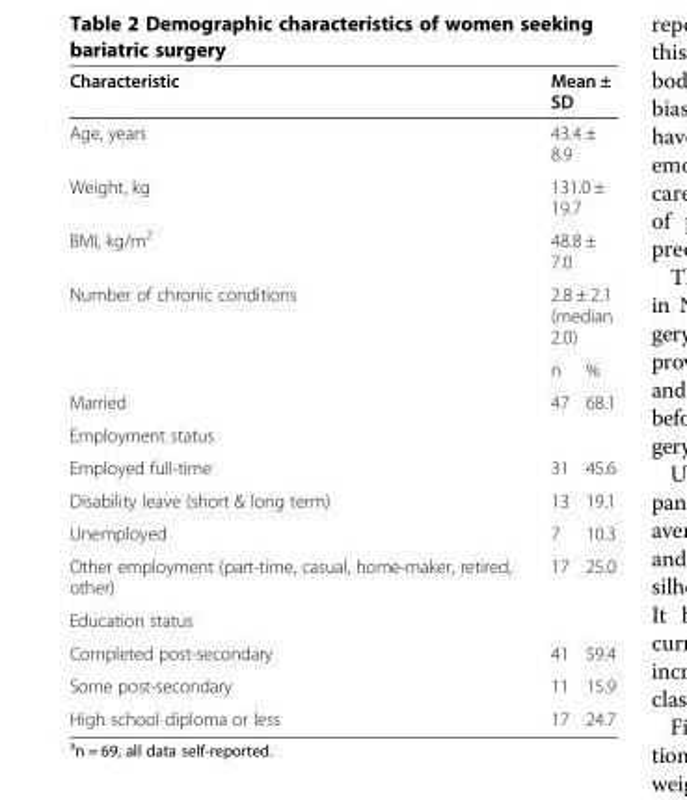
<table><thead><tr><td>Characteristic</td><td colspan="2">Mean ± SD</td></tr></thead><tbody><tr><td>Age, years</td><td colspan="2">43.4 ± 8.9</td></tr><tr><td>Weight, kg</td><td colspan="2">131.0 ± 19.7</td></tr><tr><td>BMI, kg/m<sup>2</sup></td><td colspan="2">48.8 ± 7.0</td></tr><tr><td rowspan="2">Number of chronic conditions</td><td colspan="2">2.8 ± 2.1 (median 2.0)</td></tr><tr><td>n</td><td>%</td></tr><tr><td>Married</td><td>47</td><td>68.1</td></tr><tr><td colspan="3">Employment status</td></tr><tr><td>Employed full-time</td><td>31</td><td>45.6</td></tr><tr><td>Disability leave (short &amp; long term)</td><td>13</td><td>19.1</td></tr><tr><td>Unemployed</td><td>7</td><td>10.3</td></tr><tr><td>Other employment (part-time, casual, home-maker, retired, other)</td><td>17</td><td>25.0</td></tr><tr><td colspan="3">Education status</td></tr><tr><td>Completed post-secondary</td><td>41</td><td>59.4</td></tr><tr><td>Some post-secondary</td><td>11</td><td>15.9</td></tr><tr><td>High school diploma or less</td><td>17</td><td>24.7</td></tr></tbody></table>